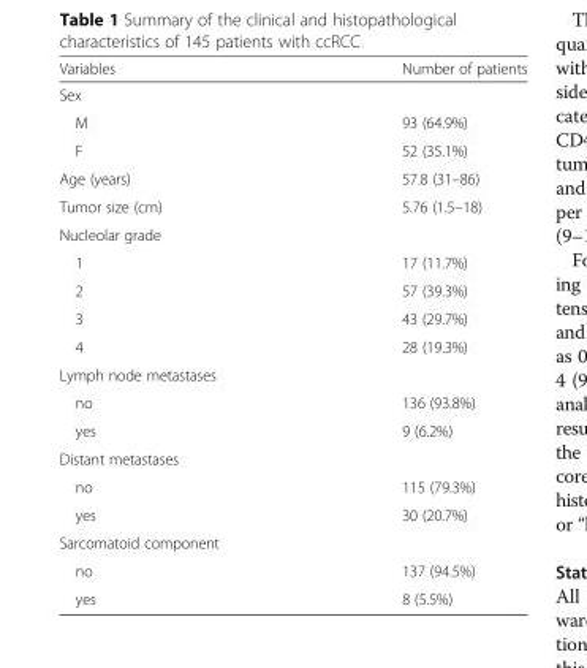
<table><thead><tr><td>Variables</td><td>Number of patients</td></tr></thead><tbody><tr><td colspan="2">Sex</td></tr><tr><td>M</td><td>93 (64.9%)</td></tr><tr><td>F</td><td>52 (35.1%)</td></tr><tr><td>Age (years)</td><td>57.8 (31–86)</td></tr><tr><td>Tumor size (cm)</td><td>5.76 (1.5–18)</td></tr><tr><td colspan="2">Nucleolar grade</td></tr><tr><td>1</td><td>17 (11.7%)</td></tr><tr><td>2</td><td>57 (39.3%)</td></tr><tr><td>3</td><td>43 (29.7%)</td></tr><tr><td>4</td><td>28 (19.3%)</td></tr><tr><td colspan="2">Lymph node metastases</td></tr><tr><td>no</td><td>136 (93.8%)</td></tr><tr><td>yes</td><td>9 (6.2%)</td></tr><tr><td colspan="2">Distant metastases</td></tr><tr><td>no</td><td>115 (79.3%)</td></tr><tr><td>yes</td><td>30 (20.7%)</td></tr><tr><td colspan="2">Sarcomatoid component</td></tr><tr><td>no</td><td>137 (94.5%)</td></tr><tr><td>yes</td><td>8 (5.5%)</td></tr></tbody></table>